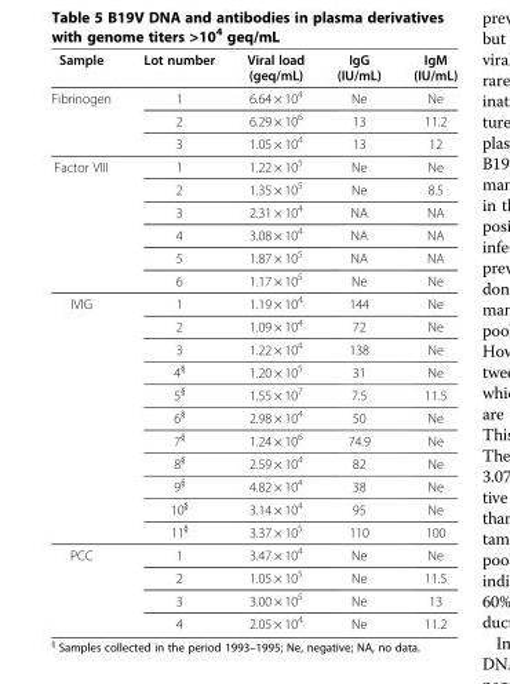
<table><thead><tr><td>Sample</td><td>Lot number</td><td>Viral load (geq/mL)</td><td>IgG (IU/mL)</td><td>IgM (IU/mL)</td></tr></thead><tbody><tr><td rowspan="3">Fibrinogen</td><td>1</td><td>6.64 × 10<sup>4</sup></td><td>Ne</td><td>Ne</td></tr><tr><td>2</td><td>6.29 × 10<sup>6</sup></td><td>13</td><td>11.2</td></tr><tr><td>3</td><td>1.05 × 10<sup>4</sup></td><td>13</td><td>12</td></tr><tr><td rowspan="6">Factor VIII</td><td>1</td><td>1.22 × 10<sup>5</sup></td><td>Ne</td><td>Ne</td></tr><tr><td>2</td><td>1.35 × 10<sup>5</sup></td><td>Ne</td><td>8.5</td></tr><tr><td>3</td><td>2.31 × 10<sup>4</sup></td><td>NA</td><td>NA</td></tr><tr><td>4</td><td>3.08 × 10<sup>4</sup></td><td>NA</td><td>NA</td></tr><tr><td>5</td><td>1.87 × 10<sup>5</sup></td><td>NA</td><td>NA</td></tr><tr><td>6</td><td>1.17 × 10<sup>5</sup></td><td>Ne</td><td>Ne</td></tr><tr><td rowspan="11">IVIG</td><td>1</td><td>1.19 × 10<sup>4</sup></td><td>144</td><td>Ne</td></tr><tr><td>2</td><td>1.09 × 10<sup>4</sup></td><td>72</td><td>Ne</td></tr><tr><td>3</td><td>1.22 × 10<sup>4</sup></td><td>138</td><td>Ne</td></tr><tr><td>4<sup>§</sup></td><td>1.20 × 10<sup>5</sup></td><td>31</td><td>Ne</td></tr><tr><td>5<sup>§</sup></td><td>1.55 × 10<sup>7</sup></td><td>7.5</td><td>11.5</td></tr><tr><td>6<sup>§</sup></td><td>2.98 × 10<sup>4</sup></td><td>50</td><td>Ne</td></tr><tr><td>7<sup>§</sup></td><td>1.24 × 10<sup>6</sup></td><td>74.9</td><td>Ne</td></tr><tr><td>8<sup>§</sup></td><td>2.59 × 10<sup>4</sup></td><td>82</td><td>Ne</td></tr><tr><td>9<sup>§</sup></td><td>4.82 × 10<sup>4</sup></td><td>38</td><td>Ne</td></tr><tr><td>10<sup>§</sup></td><td>3.14 × 10<sup>4</sup></td><td>95</td><td>Ne</td></tr><tr><td>11<sup>§</sup></td><td>3.37 × 10<sup>5</sup></td><td>110</td><td>100</td></tr><tr><td rowspan="4">PCC</td><td>1</td><td>3.47 × 10<sup>4</sup></td><td>Ne</td><td>Ne</td></tr><tr><td>2</td><td>1.05 × 10<sup>5</sup></td><td>Ne</td><td>11.5</td></tr><tr><td>3</td><td>3.00 × 10<sup>5</sup></td><td>Ne</td><td>13</td></tr><tr><td>4</td><td>2.05 × 10<sup>4</sup></td><td>Ne</td><td>11.2</td></tr></tbody></table>